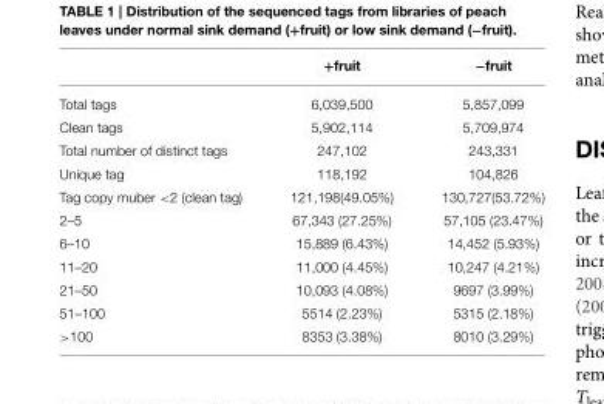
<table><thead><tr><td></td><td>+fruit</td><td>−fruit</td></tr></thead><tbody><tr><td>Total tags</td><td>6,039,500</td><td>5,857,099</td></tr><tr><td>Clean tags</td><td>5,902,114</td><td>5,709,974</td></tr><tr><td>Total number of distinct tags</td><td>247,102</td><td>243,331</td></tr><tr><td>Unique tag</td><td>118,192</td><td>104,826</td></tr><tr><td>Tag copy muber &lt;2 (clean tag)</td><td>121,198(49.05%)</td><td>130,727(53.72%)</td></tr><tr><td>2–5</td><td>67,343 (27.25%)</td><td>57,105 (23.47%)</td></tr><tr><td>6–10</td><td>15,889 (6.43%)</td><td>14,452 (5.93%)</td></tr><tr><td>11–20</td><td>11,000 (4.45%)</td><td>10,247 (4.21%)</td></tr><tr><td>21–50</td><td>10,093 (4.08%)</td><td>9697 (3.99%)</td></tr><tr><td>51–100</td><td>5514 (2.23%)</td><td>5315 (2.18%)</td></tr><tr><td>&gt;100</td><td>8353 (3.38%)</td><td>8010 (3.29%)</td></tr></tbody></table>